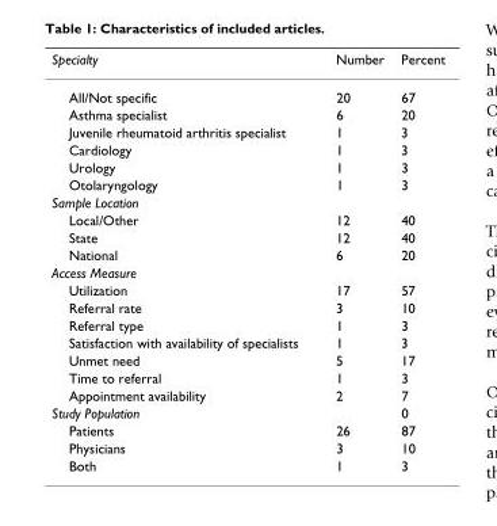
<table><thead><tr><td>Specialty</td><td>Number</td><td>Percent</td></tr></thead><tbody><tr><td>All/Not specific</td><td>20</td><td>67</td></tr><tr><td>Asthma specialist</td><td>6</td><td>20</td></tr><tr><td>Juvenile rheumatoid arthritis specialist</td><td>1</td><td>3</td></tr><tr><td>Cardiology</td><td>1</td><td>3</td></tr><tr><td>Urology</td><td>1</td><td>3</td></tr><tr><td>Otolaryngology</td><td>1</td><td>3</td></tr><tr><td colspan="3">Sample Location</td></tr><tr><td>Local/Other</td><td>12</td><td>40</td></tr><tr><td>State</td><td>12</td><td>40</td></tr><tr><td>National</td><td>6</td><td>20</td></tr><tr><td colspan="3">Access Measure</td></tr><tr><td>Utilization</td><td>17</td><td>57</td></tr><tr><td>Referral rate</td><td>3</td><td>10</td></tr><tr><td>Referral type</td><td>1</td><td>3</td></tr><tr><td>Satisfaction with availability of specialists</td><td>1</td><td>3</td></tr><tr><td>Unmet need</td><td>5</td><td>17</td></tr><tr><td>Time to referral</td><td>1</td><td>3</td></tr><tr><td>Appointment availability</td><td>2</td><td>7</td></tr><tr><td>Study Population</td><td></td><td>0</td></tr><tr><td>Patients</td><td>26</td><td>87</td></tr><tr><td>Physicians</td><td>3</td><td>10</td></tr><tr><td>Both</td><td>1</td><td>3</td></tr></tbody></table>